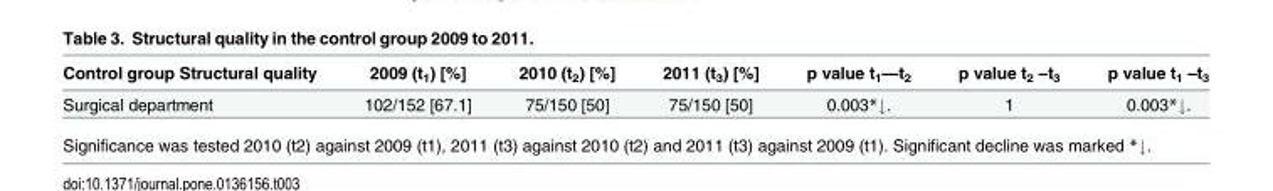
<table><thead><tr><td>Control group Structural quality</td><td>2009 (t<sub>1</sub>) [%]</td><td>2010 (t<sub>2</sub>) [%]</td><td>2011 (t<sub>3</sub>) [%]</td><td>p value t<sub>1</sub>—t<sub>2</sub></td><td>p value t<sub>2</sub> –t<sub>3</sub></td><td>p value t<sub>1</sub> –t<sub>3</sub></td></tr></thead><tbody><tr><td>Surgical department</td><td>102/152 [67.1]</td><td>75/150 [50]</td><td>75/150 [50]</td><td>0.003*↓.</td><td>1</td><td>0.003*↓.</td></tr></tbody></table>